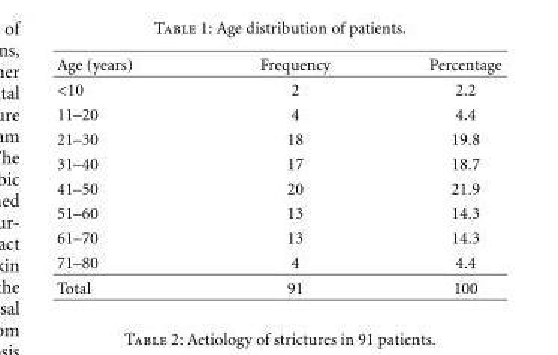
<table><thead><tr><td>Age (years)</td><td>Frequency</td><td>Percentage</td></tr></thead><tbody><tr><td>&lt;10</td><td>2</td><td>2.2</td></tr><tr><td>11–20</td><td>4</td><td>4.4</td></tr><tr><td>21–30</td><td>18</td><td>19.8</td></tr><tr><td>31–40</td><td>17</td><td>18.7</td></tr><tr><td>41–50</td><td>20</td><td>21.9</td></tr><tr><td>51–60</td><td>13</td><td>14.3</td></tr><tr><td>61–70</td><td>13</td><td>14.3</td></tr><tr><td>71–80</td><td>4</td><td>4.4</td></tr><tr><td>Total</td><td>91</td><td>100</td></tr></tbody></table>